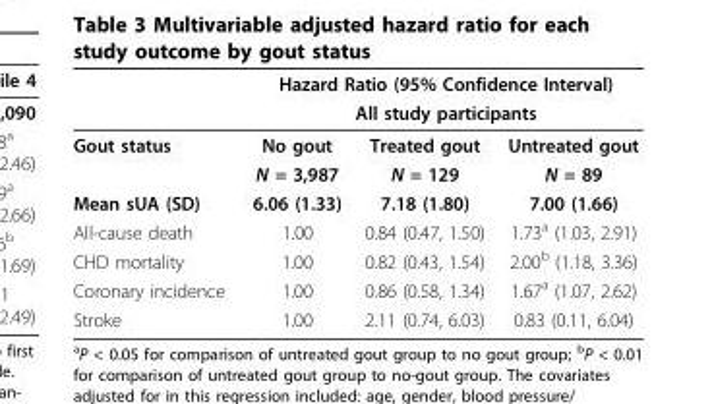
<table><thead><tr><td rowspan="3">Gout status</td><td rowspan="2" colspan="3">Hazard Ratio (95% Confidence Interval) All study participants</td></tr><tr></tr><tr><td>No gout</td><td>Treated gout</td><td>Untreated gout</td></tr></thead><tbody><tr><td></td><td>N = 3,987</td><td>N = 129</td><td>N = 89</td></tr><tr><td>Mean sUA (SD)</td><td>6.06 (1.33)</td><td>7.18 (1.80)</td><td>7.00 (1.66)</td></tr><tr><td>All-cause death</td><td>1.00</td><td>0.84 (0.47, 1.50)</td><td>1.73<sup>a</sup> (1.03, 2.91)</td></tr><tr><td>CHD mortality</td><td>1.00</td><td>0.82 (0.43, 1.54)</td><td>2.00<sup>b</sup> (1.18, 3.36)</td></tr><tr><td>Coronary incidence</td><td>1.00</td><td>0.86 (0.58, 1.34)</td><td>1.67<sup>a</sup> (1.07, 2.62)</td></tr><tr><td>Stroke</td><td>1.00</td><td>2.11 (0.74, 6.03)</td><td>0.83 (0.11, 6.04)</td></tr></tbody></table>